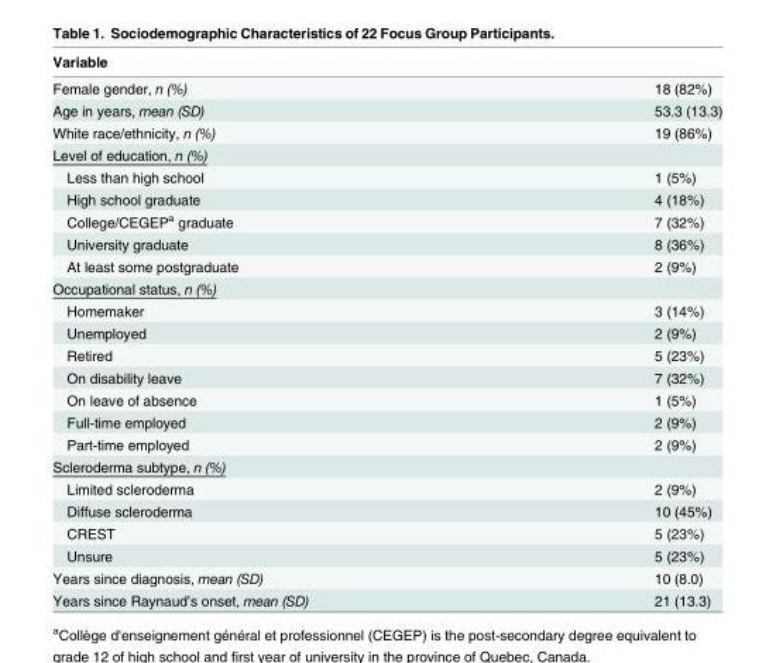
<table><thead><tr><td>Variable</td><td></td></tr></thead><tbody><tr><td>Female gender, n (%)</td><td>18 (82%)</td></tr><tr><td>Age in years, mean (SD)</td><td>53.3 (13.3)</td></tr><tr><td>White race/ethnicity, n (%)</td><td>19 (86%)</td></tr><tr><td colspan="2">Level of education, n (%)</td></tr><tr><td>Less than high school</td><td>1 (5%)</td></tr><tr><td>High school graduate</td><td>4 (18%)</td></tr><tr><td>College/CEGEP<sup>a</sup> graduate</td><td>7 (32%)</td></tr><tr><td>University graduate</td><td>8 (36%)</td></tr><tr><td>At least some postgraduate</td><td>2 (9%)</td></tr><tr><td colspan="2">Occupational status, n (%)</td></tr><tr><td>Homemaker</td><td>3 (14%)</td></tr><tr><td>Unemployed</td><td>2 (9%)</td></tr><tr><td>Retired</td><td>5 (23%)</td></tr><tr><td>On disability leave</td><td>7 (32%)</td></tr><tr><td>On leave of absence</td><td>1 (5%)</td></tr><tr><td>Full-time employed</td><td>2 (9%)</td></tr><tr><td>Part-time employed</td><td>2 (9%)</td></tr><tr><td colspan="2">Scleroderma subtype, n (%)</td></tr><tr><td>Limited scleroderma</td><td>2 (9%)</td></tr><tr><td>Diffuse scleroderma</td><td>10 (45%)</td></tr><tr><td>CREST</td><td>5 (23%)</td></tr><tr><td>Unsure</td><td>5 (23%)</td></tr><tr><td>Years since diagnosis, mean (SD)</td><td>10 (8.0)</td></tr><tr><td>Years since Raynaud’s onset, mean (SD)</td><td>21 (13.3)</td></tr></tbody></table>